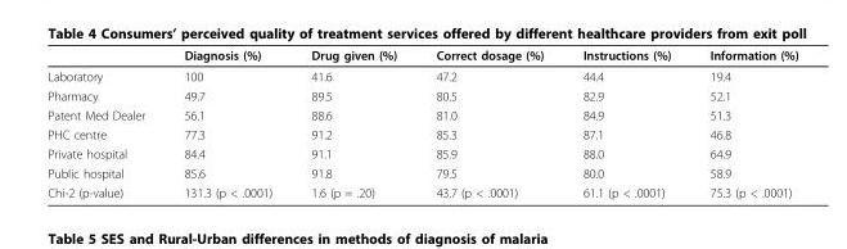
<table><thead><tr><td></td><td>Diagnosis (%)</td><td>Drug given (%)</td><td>Correct dosage (%)</td><td>Instructions (%)</td><td>Information (%)</td></tr></thead><tbody><tr><td>Laboratory</td><td>100</td><td>41.6</td><td>47.2</td><td>44.4</td><td>19.4</td></tr><tr><td>Pharmacy</td><td>49.7</td><td>89.5</td><td>80.5</td><td>82.9</td><td>52.1</td></tr><tr><td>Patent Med Dealer</td><td>56.1</td><td>88.6</td><td>81.0</td><td>84.9</td><td>51.3</td></tr><tr><td>PHC centre</td><td>77.3</td><td>91.2</td><td>85.3</td><td>87.1</td><td>46.8</td></tr><tr><td>Private hospital</td><td>84.4</td><td>91.1</td><td>85.9</td><td>88.0</td><td>64.9</td></tr><tr><td>Public hospital</td><td>85.6</td><td>91.8</td><td>79.5</td><td>80.0</td><td>58.9</td></tr><tr><td>Chi-2 (p-value)</td><td>131.3 (p &lt; .0001)</td><td>1.6 (p = .20)</td><td>43.7 (p &lt; .0001)</td><td>61.1 (p &lt; .0001)</td><td>75.3 (p &lt; .0001)</td></tr></tbody></table>